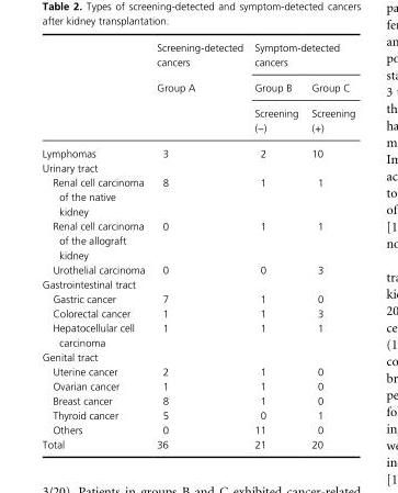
<table><thead><tr><td rowspan="3"></td><td rowspan="3">Screening- detected cancers Group A</td><td colspan="2">Symptom- detected cancers</td></tr><tr><td rowspan="2">Group B Screening (−)</td><td rowspan="2">Group C Screening (+)</td></tr><tr></tr></thead><tbody><tr><td>Lymphomas</td><td>3</td><td>2</td><td>10</td></tr><tr><td colspan="4">Urinary tract</td></tr><tr><td>Renal cell carcinoma of the native kidney</td><td>8</td><td>1</td><td>1</td></tr><tr><td>Renal cell carcinoma of the allograft kidney</td><td>0</td><td>1</td><td>1</td></tr><tr><td>Urothelial carcinoma</td><td>0</td><td>0</td><td>3</td></tr><tr><td colspan="4">Gastrointestinal tract</td></tr><tr><td>Gastric cancer</td><td>7</td><td>1</td><td>0</td></tr><tr><td>Colorectal cancer</td><td>1</td><td>1</td><td>3</td></tr><tr><td>Hepatocellular cell carcinoma</td><td>1</td><td>1</td><td>1</td></tr><tr><td colspan="4">Genital tract</td></tr><tr><td>Uterine cancer</td><td>2</td><td>1</td><td>0</td></tr><tr><td>Ovarian cancer</td><td>1</td><td>1</td><td>0</td></tr><tr><td>Breast cancer</td><td>8</td><td>1</td><td>0</td></tr><tr><td>Thyroid cancer</td><td>5</td><td>0</td><td>1</td></tr><tr><td>Others</td><td>0</td><td>11</td><td>0</td></tr><tr><td>Total</td><td>36</td><td>21</td><td>20</td></tr></tbody></table>